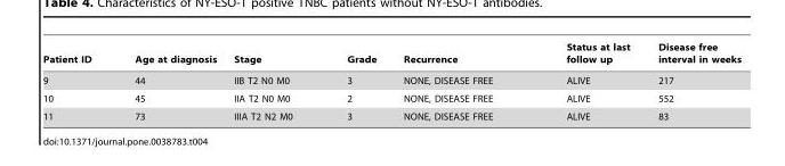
<table><thead><tr><td>Patient ID</td><td>Age at diagnosis</td><td>Stage</td><td>Grade</td><td>Recurrence</td><td>Status at last follow up</td><td>Disease free interval in weeks</td></tr></thead><tbody><tr><td>9</td><td>44</td><td>IIB T2 N0 M0</td><td>3</td><td>NONE, DISEASE FREE</td><td>ALIVE</td><td>217</td></tr><tr><td>10</td><td>45</td><td>IIA T2 N0 M0</td><td>2</td><td>NONE, DISEASE FREE</td><td>ALIVE</td><td>552</td></tr><tr><td>11</td><td>73</td><td>IIIA T2 N2 M0</td><td>3</td><td>NONE, DISEASE FREE</td><td>ALIVE</td><td>83</td></tr></tbody></table>